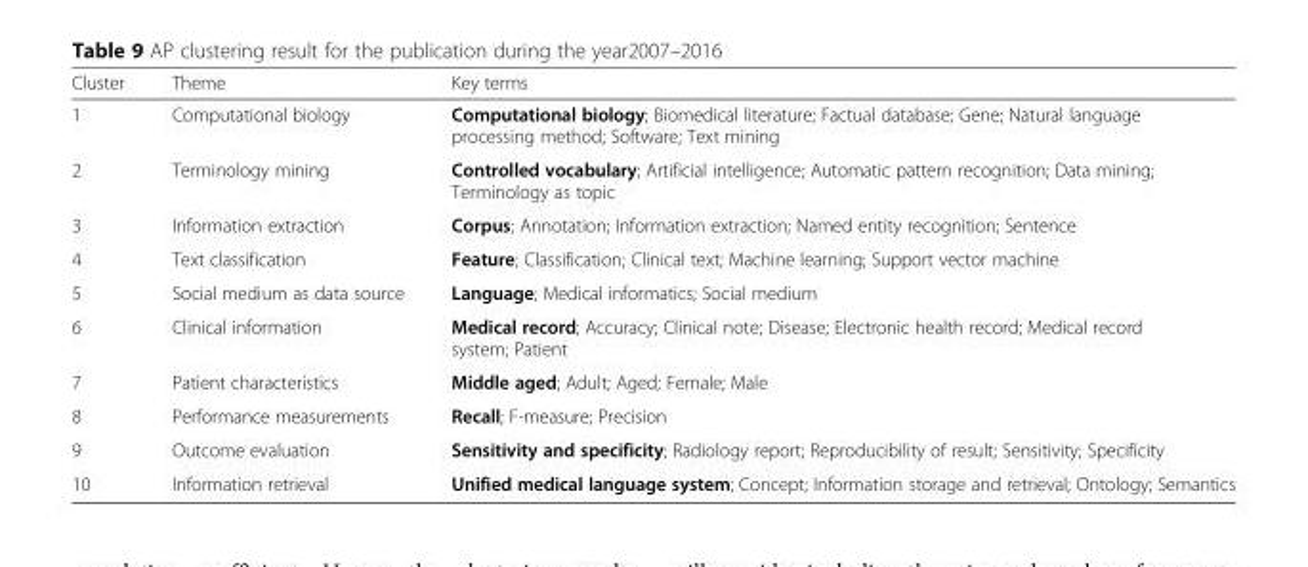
<table><thead><tr><td>Cluster</td><td>Theme</td><td>Key terms</td></tr></thead><tbody><tr><td>1</td><td>Computational biology</td><td>Computational biology; Biomedical literature; Factual database; Gene; Natural language processing method; Software; Text mining</td></tr><tr><td>2</td><td>Terminology mining</td><td>Controlled vocabulary; Artificial intelligence; Automatic pattern recognition; Data mining; Terminology as topic</td></tr><tr><td>3</td><td>Information extraction</td><td>Corpus; Annotation; Information extraction; Named entity recognition; Sentence</td></tr><tr><td>4</td><td>Text classification</td><td>Feature; Classification; Clinical text; Machine learning; Support vector machine</td></tr><tr><td>5</td><td>Social medium as data source</td><td>Language; Medical informatics; Social medium</td></tr><tr><td>6</td><td>Clinical information</td><td>Medical record; Accuracy; Clinical note; Disease; Electronic health record; Medical record system; Patient</td></tr><tr><td>7</td><td>Patient characteristics</td><td>Middle aged; Adult; Aged; Female; Male</td></tr><tr><td>8</td><td>Performance measurements</td><td>Recall; F-measure; Precision</td></tr><tr><td>9</td><td>Outcome evaluation</td><td>Sensitivity and specificity; Radiology report; Reproducibility of result; Sensitivity; Specificity</td></tr><tr><td>10</td><td>Information retrieval</td><td>Unified medical language system; Concept; Information storage and retrieval; Ontology; Semantics</td></tr></tbody></table>